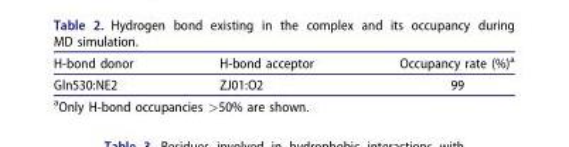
<table><thead><tr><td>H-bond donor</td><td>H-bond acceptor</td><td>Occupancy rate (%)<sup>a</sup></td></tr></thead><tbody><tr><td>Gln530:NE2</td><td>ZJ01:O2</td><td>99</td></tr></tbody></table>